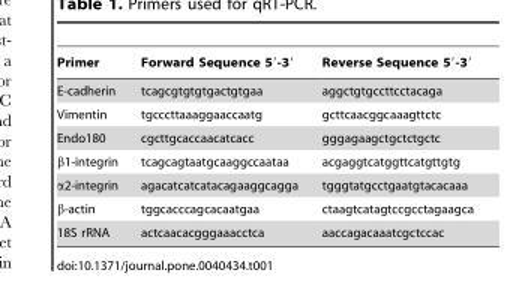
<table><thead><tr><td>Primer</td><td>Forward Sequence 5′-3′</td><td>Reverse Sequence 5′-3′</td></tr></thead><tbody><tr><td>E-cadherin</td><td>tcagcgtgtgtgactgtgaa</td><td>aggctgtgccttcctacaga</td></tr><tr><td>Vimentin</td><td>tgcccttaaaggaaccaatg</td><td>gcttcaacggcaaagttctc</td></tr><tr><td>Endo180</td><td>cgcttgcaccaacatcacc</td><td>gggagaagctgctctgctc</td></tr><tr><td>β1-integrin</td><td>tcagcagtaatgcaaggccaataa</td><td>acgaggtcatggttcatgttgtg</td></tr><tr><td>α2-integrin</td><td>agacatcatcatacagaaggcagga</td><td>tgggtatgcctgaatgtacacaaa</td></tr><tr><td>β-actin</td><td>tggcacccagcacaatgaa</td><td>ctaagtcatagtccgcctagaagca</td></tr><tr><td>18S rRNA</td><td>actcaacacgggaaacctca</td><td>aaccagacaaatcgctccac</td></tr></tbody></table>